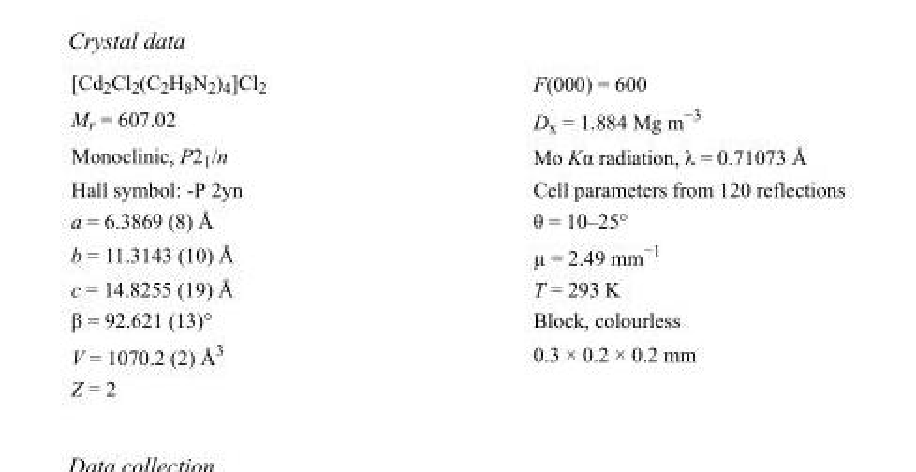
<table><tbody><tr><td>[Cd<sub>2</sub>Cl<sub>2</sub>(C<sub>2</sub>H<sub>8</sub>N<sub>2</sub>)<sub>4</sub>]Cl<sub>2</sub></td><td>F(000) = 600</td></tr><tr><td>M<sub>r</sub> = 607.02</td><td>D<sub>x</sub> = 1.884 Mg m<sup>−3</sup></td></tr><tr><td>Monoclinic, P2<sub>1</sub>/n</td><td>Mo Kα radiation, λ = 0.71073 Å</td></tr><tr><td>Hall symbol: -P 2yn</td><td>Cell parameters from 120 reflections</td></tr><tr><td>a = 6.3869 (8) Å</td><td>θ = 10–25°</td></tr><tr><td>b = 11.3143 (10) Å</td><td>µ = 2.49 mm<sup>−1</sup></td></tr><tr><td>c = 14.8255 (19) Å</td><td>T = 293 K</td></tr><tr><td>β = 92.621 (13)°</td><td>Block, colourless</td></tr><tr><td>V = 1070.2 (2) Å<sup>3</sup></td><td>0.3 × 0.2 × 0.2 mm</td></tr><tr><td>Z = 2</td><td></td></tr></tbody></table>